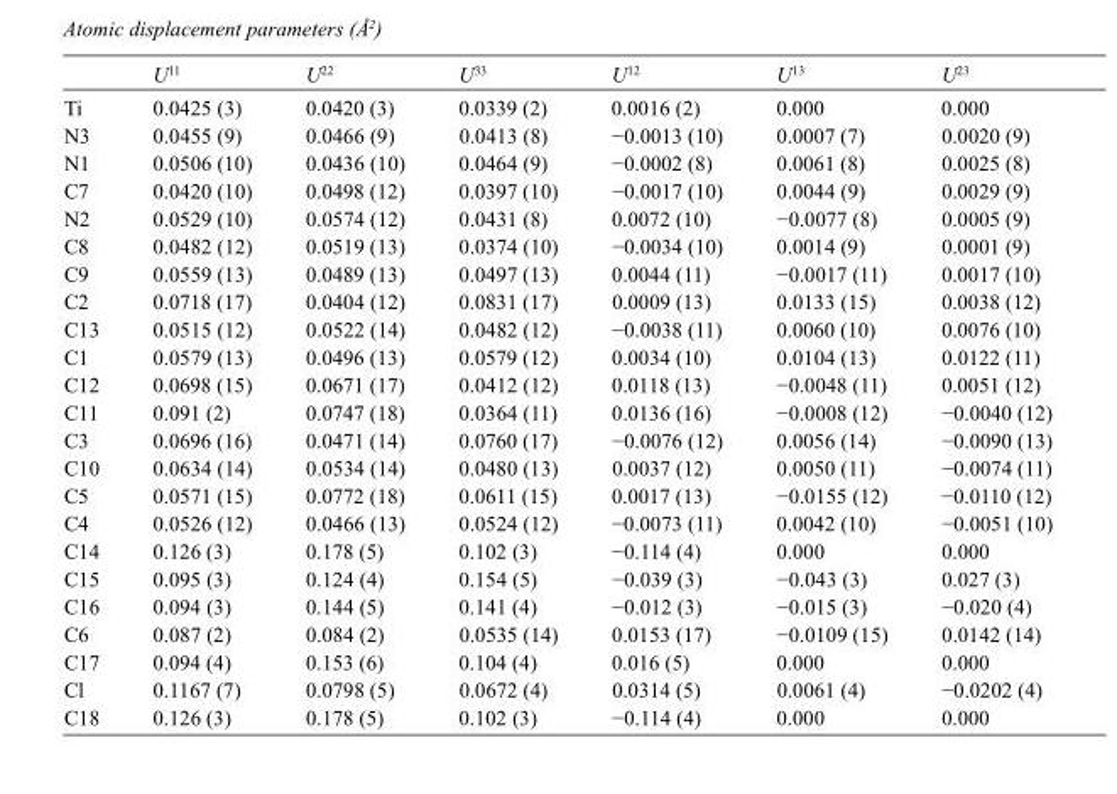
<table><thead><tr><td></td><td>U<sup>11</sup></td><td>U<sup>22</sup></td><td>U<sup>33</sup></td><td>U<sup>12</sup></td><td>U<sup>13</sup></td><td>U<sup>23</sup></td></tr></thead><tbody><tr><td>Ti</td><td>0.0425 (3)</td><td>0.0420 (3)</td><td>0.0339 (2)</td><td>0.0016 (2)</td><td>0.000</td><td>0.000</td></tr><tr><td>N3</td><td>0.0455 (9)</td><td>0.0466 (9)</td><td>0.0413 (8)</td><td>−0.0013 (10)</td><td>0.0007 (7)</td><td>0.0020 (9)</td></tr><tr><td>N1</td><td>0.0506 (10)</td><td>0.0436 (10)</td><td>0.0464 (9)</td><td>−0.0002 (8)</td><td>0.0061 (8)</td><td>0.0025 (8)</td></tr><tr><td>C7</td><td>0.0420 (10)</td><td>0.0498 (12)</td><td>0.0397 (10)</td><td>−0.0017 (10)</td><td>0.0044 (9)</td><td>0.0029 (9)</td></tr><tr><td>N2</td><td>0.0529 (10)</td><td>0.0574 (12)</td><td>0.0431 (8)</td><td>0.0072 (10)</td><td>−0.0077 (8)</td><td>0.0005 (9)</td></tr><tr><td>C8</td><td>0.0482 (12)</td><td>0.0519 (13)</td><td>0.0374 (10)</td><td>−0.0034 (10)</td><td>0.0014 (9)</td><td>0.0001 (9)</td></tr><tr><td>C9</td><td>0.0559 (13)</td><td>0.0489 (13)</td><td>0.0497 (13)</td><td>0.0044 (11)</td><td>−0.0017 (11)</td><td>0.0017 (10)</td></tr><tr><td>C2</td><td>0.0718 (17)</td><td>0.0404 (12)</td><td>0.0831 (17)</td><td>0.0009 (13)</td><td>0.0133 (15)</td><td>0.0038 (12)</td></tr><tr><td>C13</td><td>0.0515 (12)</td><td>0.0522 (14)</td><td>0.0482 (12)</td><td>−0.0038 (11)</td><td>0.0060 (10)</td><td>0.0076 (10)</td></tr><tr><td>C1</td><td>0.0579 (13)</td><td>0.0496 (13)</td><td>0.0579 (12)</td><td>0.0034 (10)</td><td>0.0104 (13)</td><td>0.0122 (11)</td></tr><tr><td>C12</td><td>0.0698 (15)</td><td>0.0671 (17)</td><td>0.0412 (12)</td><td>0.0118 (13)</td><td>−0.0048 (11)</td><td>0.0051 (12)</td></tr><tr><td>C11</td><td>0.091 (2)</td><td>0.0747 (18)</td><td>0.0364 (11)</td><td>0.0136 (16)</td><td>−0.0008 (12)</td><td>−0.0040 (12)</td></tr><tr><td>C3</td><td>0.0696 (16)</td><td>0.0471 (14)</td><td>0.0760 (17)</td><td>−0.0076 (12)</td><td>0.0056 (14)</td><td>−0.0090 (13)</td></tr><tr><td>C10</td><td>0.0634 (14)</td><td>0.0534 (14)</td><td>0.0480 (13)</td><td>0.0037 (12)</td><td>0.0050 (11)</td><td>−0.0074 (11)</td></tr><tr><td>C5</td><td>0.0571 (15)</td><td>0.0772 (18)</td><td>0.0611 (15)</td><td>0.0017 (13)</td><td>−0.0155 (12)</td><td>−0.0110 (12)</td></tr><tr><td>C4</td><td>0.0526 (12)</td><td>0.0466 (13)</td><td>0.0524 (12)</td><td>−0.0073 (11)</td><td>0.0042 (10)</td><td>−0.0051 (10)</td></tr><tr><td>C14</td><td>0.126 (3)</td><td>0.178 (5)</td><td>0.102 (3)</td><td>−0.114 (4)</td><td>0.000</td><td>0.000</td></tr><tr><td>C15</td><td>0.095 (3)</td><td>0.124 (4)</td><td>0.154 (5)</td><td>−0.039 (3)</td><td>−0.043 (3)</td><td>0.027 (3)</td></tr><tr><td>C16</td><td>0.094 (3)</td><td>0.144 (5)</td><td>0.141 (4)</td><td>−0.012 (3)</td><td>−0.015 (3)</td><td>−0.020 (4)</td></tr><tr><td>C6</td><td>0.087 (2)</td><td>0.084 (2)</td><td>0.0535 (14)</td><td>0.0153 (17)</td><td>−0.0109 (15)</td><td>0.0142 (14)</td></tr><tr><td>C17</td><td>0.094 (4)</td><td>0.153 (6)</td><td>0.104 (4)</td><td>0.016 (5)</td><td>0.000</td><td>0.000</td></tr><tr><td>Cl</td><td>0.1167 (7)</td><td>0.0798 (5)</td><td>0.0672 (4)</td><td>0.0314 (5)</td><td>0.0061 (4)</td><td>−0.0202 (4)</td></tr><tr><td>C18</td><td>0.126 (3)</td><td>0.178 (5)</td><td>0.102 (3)</td><td>−0.114 (4)</td><td>0.000</td><td>0.000</td></tr></tbody></table>